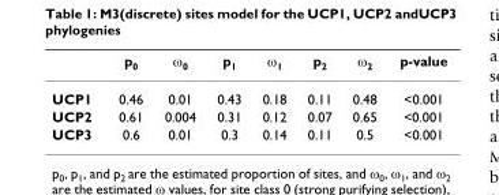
<table><thead><tr><td></td><td>p<sub>0</sub></td><td>ω<sub>0</sub></td><td>p<sub>1</sub></td><td>ω<sub>1</sub></td><td>p<sub>2</sub></td><td>ω<sub>2</sub></td><td>p-value</td></tr></thead><tbody><tr><td>UCP1</td><td>0.46</td><td>0.01</td><td>0.43</td><td>0.18</td><td>0.11</td><td>0.48</td><td>&lt;0.001</td></tr><tr><td>UCP2</td><td>0.61</td><td>0.004</td><td>0.31</td><td>0.12</td><td>0.07</td><td>0.65</td><td>&lt;0.001</td></tr><tr><td>UCP3</td><td>0.6</td><td>0.01</td><td>0.3</td><td>0.14</td><td>0.11</td><td>0.5</td><td>&lt;0.001</td></tr></tbody></table>